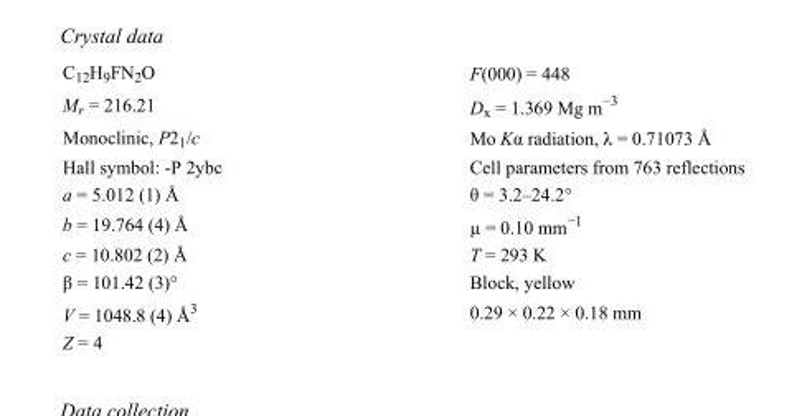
<table><tbody><tr><td>C<sub>12</sub>H<sub>9</sub>FN<sub>2</sub>O</td><td>F(000) = 448</td></tr><tr><td>M<sub>r</sub> = 216.21</td><td>D<sub>x</sub> = 1.369 Mg m<sup>−3</sup></td></tr><tr><td>Monoclinic, P2<sub>1</sub>/c</td><td>Mo Kα radiation, λ = 0.71073 Å</td></tr><tr><td>Hall symbol: -P 2ybc</td><td>Cell parameters from 763 reflections</td></tr><tr><td>a = 5.012 (1) Å</td><td>θ = 3.2–24.2°</td></tr><tr><td>b = 19.764 (4) Å</td><td>µ = 0.10 mm<sup>−1</sup></td></tr><tr><td>c = 10.802 (2) Å</td><td>T = 293 K</td></tr><tr><td>β = 101.42 (3)°</td><td>Block, yellow</td></tr><tr><td>V = 1048.8 (4) Å<sup>3</sup></td><td>0.29 × 0.22 × 0.18 mm</td></tr><tr><td>Z = 4</td><td></td></tr></tbody></table>